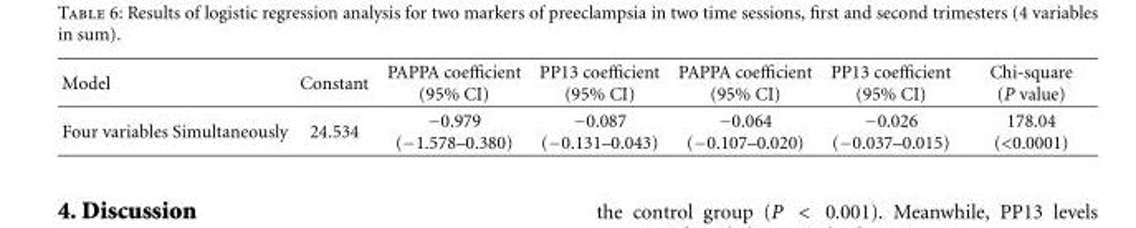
<table><thead><tr><td>Model</td><td>Constant</td><td>PAPPA coefficient (95% CI)</td><td>PP13 coefficient (95% CI)</td><td>PAPPA coefficient (95% CI)</td><td>PP13 coefficient (95% CI)</td><td>Chi-square (P value)</td></tr></thead><tbody><tr><td>Four variables Simultaneously</td><td>24.534</td><td>−0.979 (−1.578–0.380)</td><td>−0.087 (−0.131–0.043)</td><td>−0.064 (−0.107–0.020)</td><td>−0.026 (−0.037–0.015)</td><td>178.04 (&lt;0.0001)</td></tr></tbody></table>